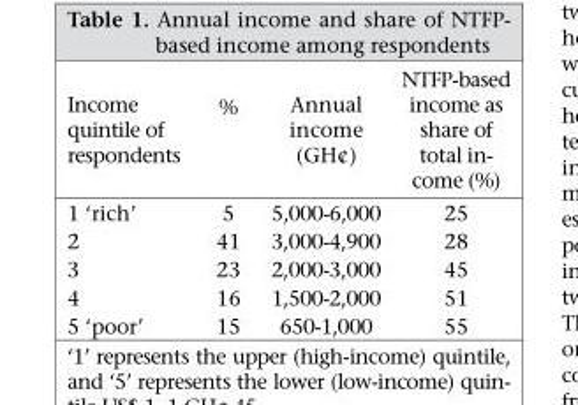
<table><thead><tr><td>Income quintile of respondents</td><td>%</td><td>Annual income (GH¢)</td><td>NTFP-based income as share of total in- come (%)</td></tr></thead><tbody><tr><td>1 ‘rich’</td><td>5</td><td>5,000-6,000</td><td>25</td></tr><tr><td>2</td><td>41</td><td>3,000-4,900</td><td>28</td></tr><tr><td>3</td><td>23</td><td>2,000-3,000</td><td>45</td></tr><tr><td>4</td><td>16</td><td>1,500-2,000</td><td>51</td></tr><tr><td>5 ‘poor’</td><td>15</td><td>650-1,000</td><td>55</td></tr></tbody></table>